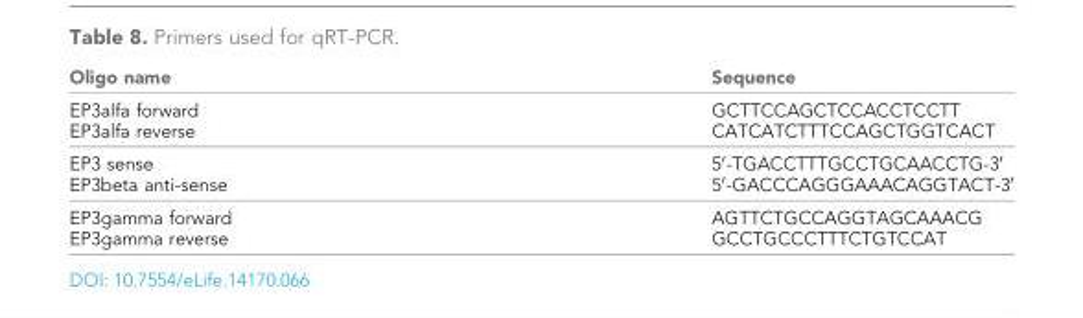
<table><thead><tr><td>Oligo name</td><td>Sequence</td></tr></thead><tbody><tr><td>EP3alfa forward EP3alfa reverse</td><td>GCTTCCAGCTCCACCTCCTT CATCATCTTTCCAGCTGGTCACT</td></tr><tr><td>EP3 sense EP3beta anti-sense</td><td>5′-TGACCTTTGCCTGCAACCTG-3′ 5′-GACCCAGGGAAACAGGTACT-3′</td></tr><tr><td>EP3gamma forward EP3gamma reverse</td><td>AGTTCTGCCAGGTAGCAAACG GCCTGCCCTTTCTGTCCAT</td></tr></tbody></table>